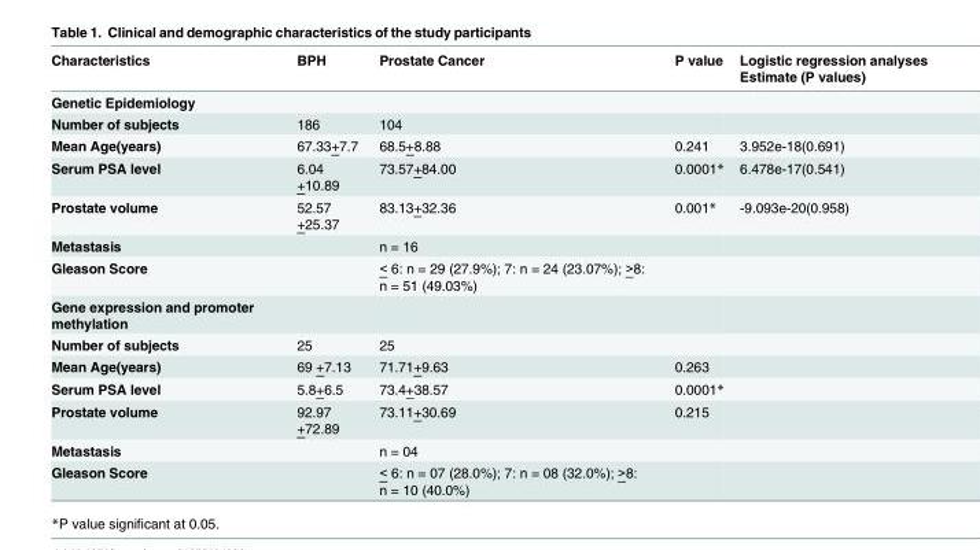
<table><thead><tr><td>Characteristics</td><td>BPH</td><td>Prostate Cancer</td><td>P value</td><td>Logistic regression analyses Estimate (P values)</td></tr></thead><tbody><tr><td colspan="5">Genetic Epidemiology</td></tr><tr><td>Number of subjects</td><td>186</td><td>104</td><td></td><td></td></tr><tr><td>Mean Age(years)</td><td>67.33+7.7</td><td>68.5+8.88</td><td>0.241</td><td>3.952e-18(0.691)</td></tr><tr><td>Serum PSA level</td><td>6.04 +10.89</td><td>73.57+84.00</td><td>0.0001*</td><td>6.478e-17(0.541)</td></tr><tr><td>Prostate volume</td><td>52.57 +25.37</td><td>83.13+32.36</td><td>0.001*</td><td>-9.093e-20(0.958)</td></tr><tr><td>Metastasis</td><td></td><td>n = 16</td><td></td><td></td></tr><tr><td>Gleason Score</td><td></td><td>&lt; 6: n = 29 (27.9%); 7: n = 24 (23.07%); &gt;8: n = 51 (49.03%)</td><td></td><td></td></tr><tr><td colspan="5">Gene expression and promoter methylation</td></tr><tr><td>Number of subjects</td><td>25</td><td>25</td><td></td><td></td></tr><tr><td>Mean Age(years)</td><td>69 +7.13</td><td>71.71+9.63</td><td>0.263</td><td></td></tr><tr><td>Serum PSA level</td><td>5.8+6.5</td><td>73.4+38.57</td><td>0.0001*</td><td></td></tr><tr><td>Prostate volume</td><td>92.97 +72.89</td><td>73.11+30.69</td><td>0.215</td><td></td></tr><tr><td>Metastasis</td><td></td><td>n = 04</td><td></td><td></td></tr><tr><td>Gleason Score</td><td></td><td>&lt; 6: n = 07 (28.0%); 7: n = 08 (32.0%); &gt;8: n = 10 (40.0%)</td><td></td><td></td></tr></tbody></table>